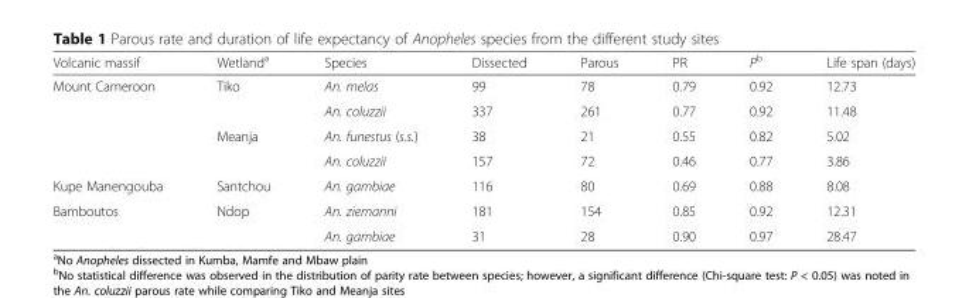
<table><thead><tr><td>Volcanic massif</td><td>Wetland<sup>a</sup></td><td>Species</td><td>Dissected</td><td>Parous</td><td>PR</td><td>P<sup>b</sup></td><td>Life span (days)</td></tr></thead><tbody><tr><td rowspan="4">Mount Cameroon</td><td rowspan="2">Tiko</td><td>An. melas</td><td>99</td><td>78</td><td>0.79</td><td>0.92</td><td>12.73</td></tr><tr><td>An. coluzzii</td><td>337</td><td>261</td><td>0.77</td><td>0.92</td><td>11.48</td></tr><tr><td rowspan="2">Meanja</td><td>An. funestus (s.s.)</td><td>38</td><td>21</td><td>0.55</td><td>0.82</td><td>5.02</td></tr><tr><td>An. coluzzii</td><td>157</td><td>72</td><td>0.46</td><td>0.77</td><td>3.86</td></tr><tr><td>Kupe Manengouba</td><td>Santchou</td><td>An. gambiae</td><td>116</td><td>80</td><td>0.69</td><td>0.88</td><td>8.08</td></tr><tr><td rowspan="2">Bamboutos</td><td rowspan="2">Ndop</td><td>An. ziemanni</td><td>181</td><td>154</td><td>0.85</td><td>0.92</td><td>12.31</td></tr><tr><td>An. gambiae</td><td>31</td><td>28</td><td>0.90</td><td>0.97</td><td>28.47</td></tr></tbody></table>